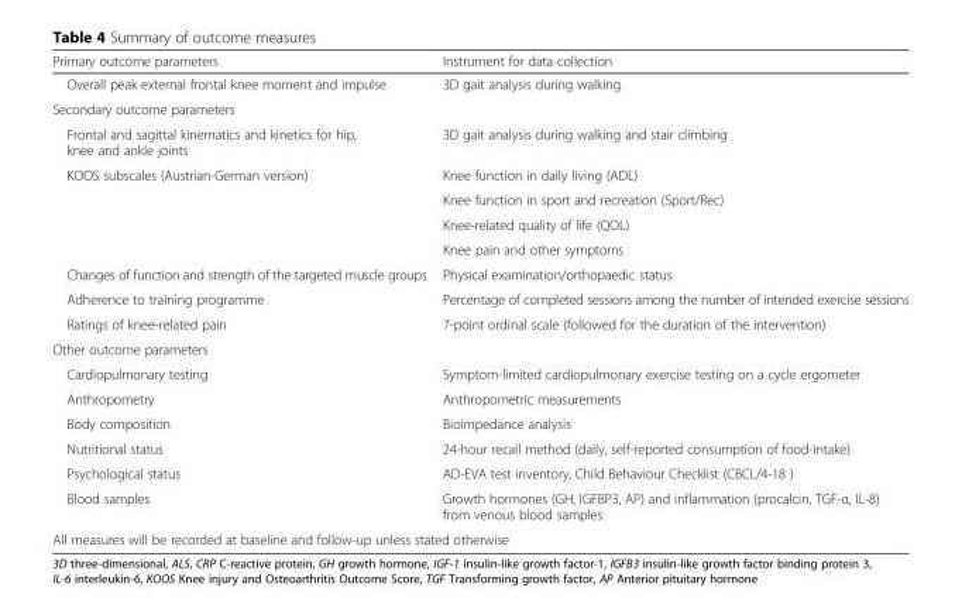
<table><thead><tr><td>Primary outcome parameters</td><td>Instrument for data collection</td></tr></thead><tbody><tr><td>Overall peak external frontal knee moment and impulse</td><td>3D gait analysis during walking</td></tr><tr><td colspan="2">Secondary outcome parameters</td></tr><tr><td>Frontal and sagittal kinematics and kinetics for hip, knee and ankle joints</td><td>3D gait analysis during walking and stair climbing</td></tr><tr><td rowspan="4">KOOS subscales (Austrian-German version)</td><td>Knee function in daily living (ADL)</td></tr><tr><td>Knee function in sport and recreation (Sport/Rec)</td></tr><tr><td>Knee-related quality of life (QOL)</td></tr><tr><td>Knee pain and other symptoms</td></tr><tr><td>Changes of function and strength of the targeted muscle groups</td><td>Physical examination/orthopaedic status</td></tr><tr><td>Adherence to training programme</td><td>Percentage of completed sessions among the number of intended exercise sessions</td></tr><tr><td>Ratings of knee-related pain</td><td>7-point ordinal scale (followed for the duration of the intervention)</td></tr><tr><td colspan="2">Other outcome parameters</td></tr><tr><td>Cardiopulmonary testing</td><td>Symptom-limited cardiopulmonary exercise testing on a cycle ergometer</td></tr><tr><td>Anthropometry</td><td>Anthropometric measurements</td></tr><tr><td>Body composition</td><td>Bioimpedance analysis</td></tr><tr><td>Nutritional status</td><td>24-hour recall method (daily, self-reported consumption of food-intake)</td></tr><tr><td>Psychological status</td><td>AD-EVA test inventory, Child Behaviour Checklist (CBCL/4-18 )</td></tr><tr><td>Blood samples</td><td>Growth hormones (GH, IGFBP3, AP) and inflammation (procalcin, TGF-α, IL-8) from venous blood samples</td></tr><tr><td colspan="2">All measures will be recorded at baseline and follow-up unless stated otherwise</td></tr></tbody></table>